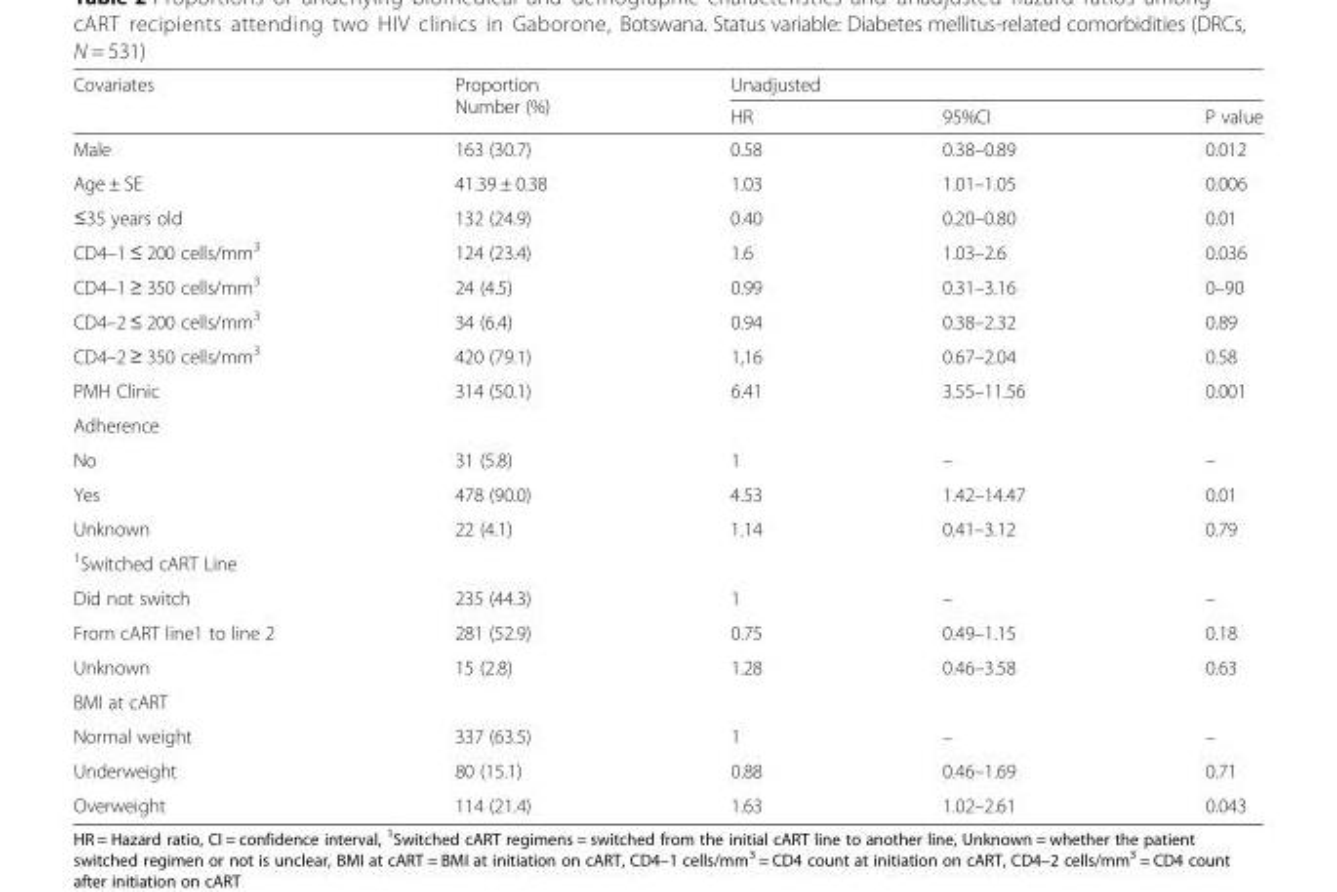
<table><thead><tr><td rowspan="2">Covariates</td><td rowspan="2">Proportion Number (%)</td><td colspan="3">Unadjusted</td></tr><tr><td>HR</td><td>95%CI</td><td>P value</td></tr></thead><tbody><tr><td>Male</td><td>163 (30.7)</td><td>0.58</td><td>0.38–0.89</td><td>0.012</td></tr><tr><td>Age ± SE</td><td>41.39 ± 0.38</td><td>1.03</td><td>1.01–1.05</td><td>0.006</td></tr><tr><td>≤35 years old</td><td>132 (24.9)</td><td>0.40</td><td>0.20–0.80</td><td>0.01</td></tr><tr><td>CD4–1 ≤ 200 cells/mm<sup>3</sup></td><td>124 (23.4)</td><td>1.6</td><td>1.03–2.6</td><td>0.036</td></tr><tr><td>CD4–1 ≥ 350 cells/mm<sup>3</sup></td><td>24 (4.5)</td><td>0.99</td><td>0.31–3.16</td><td>0–90</td></tr><tr><td>CD4–2 ≤ 200 cells/mm<sup>3</sup></td><td>34 (6.4)</td><td>0.94</td><td>0.38–2.32</td><td>0.89</td></tr><tr><td>CD4–2 ≥ 350 cells/mm<sup>3</sup></td><td>420 (79.1)</td><td>1,16</td><td>0.67–2.04</td><td>0.58</td></tr><tr><td>PMH Clinic</td><td>314 (50.1)</td><td>6.41</td><td>3.55–11.56</td><td>0.001</td></tr><tr><td colspan="5">Adherence</td></tr><tr><td>No</td><td>31 (5.8)</td><td>1</td><td>–</td><td>–</td></tr><tr><td>Yes</td><td>478 (90.0)</td><td>4.53</td><td>1.42–14.47</td><td>0.01</td></tr><tr><td>Unknown</td><td>22 (4.1)</td><td>1.14</td><td>0.41–3.12</td><td>0.79</td></tr><tr><td colspan="5"><sup>1</sup>Switched cART Line</td></tr><tr><td>Did not switch</td><td>235 (44.3)</td><td>1</td><td>–</td><td>–</td></tr><tr><td>From cART line1 to line 2</td><td>281 (52.9)</td><td>0.75</td><td>0.49–1.15</td><td>0.18</td></tr><tr><td>Unknown</td><td>15 (2.8)</td><td>1.28</td><td>0.46–3.58</td><td>0.63</td></tr><tr><td colspan="5">BMI at cART</td></tr><tr><td>Normal weight</td><td>337 (63.5)</td><td>1</td><td>–</td><td>–</td></tr><tr><td>Underweight</td><td>80 (15.1)</td><td>0.88</td><td>0.46–1.69</td><td>0.71</td></tr><tr><td>Overweight</td><td>114 (21.4)</td><td>1.63</td><td>1.02–2.61</td><td>0.043</td></tr></tbody></table>